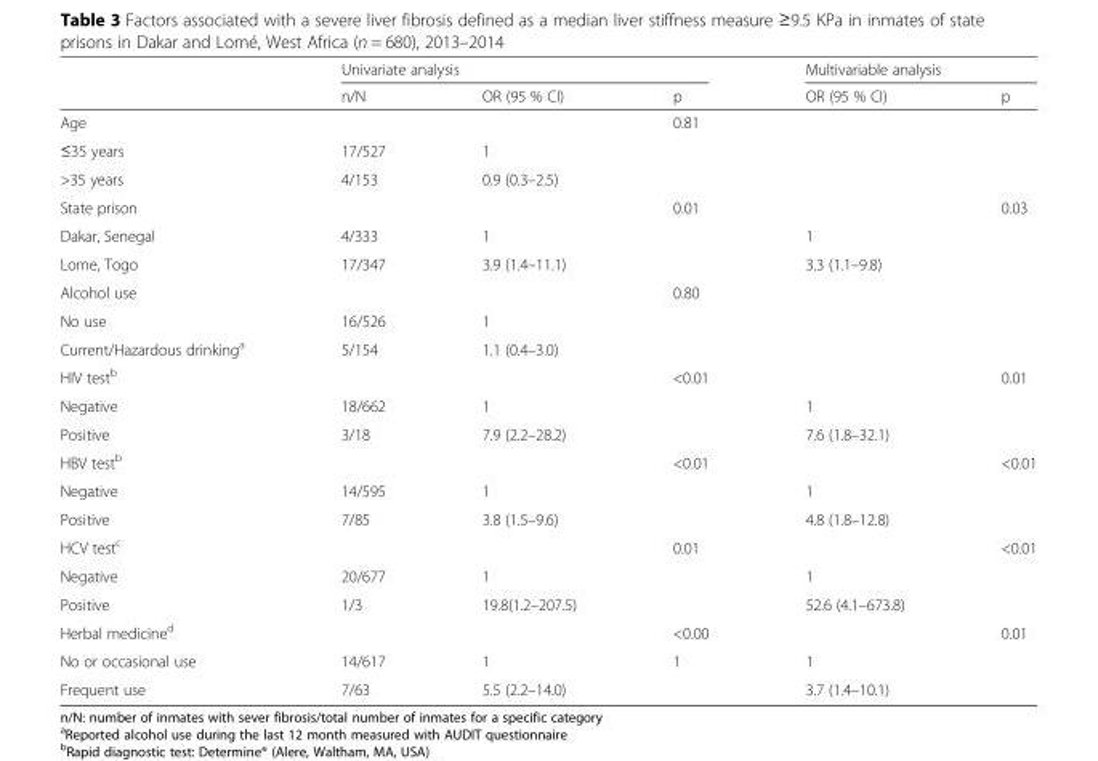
<table><thead><tr><td rowspan="2"></td><td colspan="3">Univariate analysis</td><td colspan="2">Multivariable analysis</td></tr><tr><td>n/N</td><td>OR (95 % CI)</td><td>p</td><td>OR (95 % CI)</td><td>p</td></tr></thead><tbody><tr><td>Age</td><td></td><td></td><td>0.81</td><td></td><td></td></tr><tr><td>≤35 years</td><td>17/527</td><td>1</td><td></td><td></td><td></td></tr><tr><td>&gt;35 years</td><td>4/153</td><td>0.9 (0.3–2.5)</td><td></td><td></td><td></td></tr><tr><td>State prison</td><td></td><td></td><td>0.01</td><td></td><td>0.03</td></tr><tr><td>Dakar, Senegal</td><td>4/333</td><td>1</td><td></td><td>1</td><td></td></tr><tr><td>Lome, Togo</td><td>17/347</td><td>3.9 (1.4–11.1)</td><td></td><td>3.3 (1.1–9.8)</td><td></td></tr><tr><td>Alcohol use</td><td></td><td></td><td>0.80</td><td></td><td></td></tr><tr><td>No use</td><td>16/526</td><td>1</td><td></td><td></td><td></td></tr><tr><td>Current/Hazardous drinking<sup>a</sup></td><td>5/154</td><td>1.1 (0.4–3.0)</td><td></td><td></td><td></td></tr><tr><td>HIV test<sup>b</sup></td><td></td><td></td><td>&lt;0.01</td><td></td><td>0.01</td></tr><tr><td>Negative</td><td>18/662</td><td>1</td><td></td><td>1</td><td></td></tr><tr><td>Positive</td><td>3/18</td><td>7.9 (2.2–28.2)</td><td></td><td>7.6 (1.8–32.1)</td><td></td></tr><tr><td>HBV test<sup>b</sup></td><td></td><td></td><td>&lt;0.01</td><td></td><td>&lt;0.01</td></tr><tr><td>Negative</td><td>14/595</td><td>1</td><td></td><td>1</td><td></td></tr><tr><td>Positive</td><td>7/85</td><td>3.8 (1.5–9.6)</td><td></td><td>4.8 (1.8–12.8)</td><td></td></tr><tr><td>HCV test<sup>c</sup></td><td></td><td></td><td>0.01</td><td></td><td>&lt;0.01</td></tr><tr><td>Negative</td><td>20/677</td><td>1</td><td></td><td>1</td><td></td></tr><tr><td>Positive</td><td>1/3</td><td>19.8(1.2–207.5)</td><td></td><td>52.6 (4.1–673.8)</td><td></td></tr><tr><td>Herbal medicine<sup>d</sup></td><td></td><td></td><td>&lt;0.00</td><td></td><td>0.01</td></tr><tr><td>No or occasional use</td><td>14/617</td><td>1</td><td>1</td><td>1</td><td></td></tr><tr><td>Frequent use</td><td>7/63</td><td>5.5 (2.2–14.0)</td><td></td><td>3.7 (1.4–10.1)</td><td></td></tr></tbody></table>